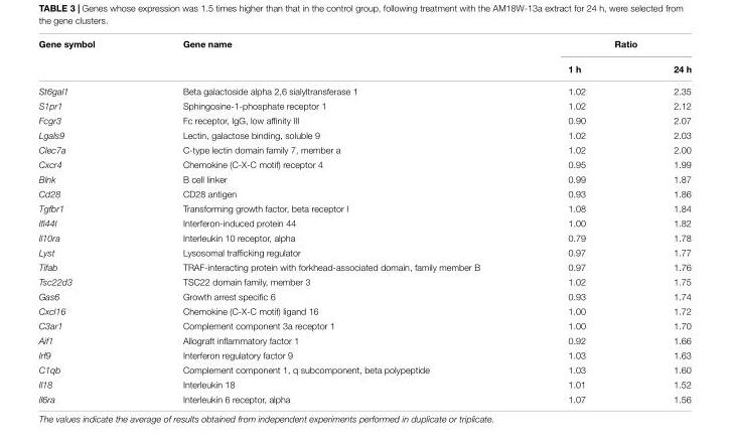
<table><thead><tr><td rowspan="2">Gene symbol</td><td rowspan="2">Gene name</td><td colspan="2">Ratio</td></tr><tr><td>1 h</td><td>24 h</td></tr></thead><tbody><tr><td>St6gal1</td><td>Beta galactoside alpha 2,6 sialyltransferase 1</td><td>1.02</td><td>2.35</td></tr><tr><td>S1pr1</td><td>Sphingosine-1-phosphate receptor 1</td><td>1.02</td><td>2.12</td></tr><tr><td>Fcgr3</td><td>Fc receptor, IgG, low affinity III</td><td>0.90</td><td>2.07</td></tr><tr><td>Lgals9</td><td>Lectin, galactose binding, soluble 9</td><td>1.02</td><td>2.03</td></tr><tr><td>Clec7a</td><td>C-type lectin domain family 7, member a</td><td>1.02</td><td>2.00</td></tr><tr><td>Cxcr4</td><td>Chemokine (C-X-C motif) receptor 4</td><td>0.95</td><td>1.99</td></tr><tr><td>Blnk</td><td>B cell linker</td><td>0.99</td><td>1.87</td></tr><tr><td>Cd28</td><td>CD28 antigen</td><td>0.93</td><td>1.86</td></tr><tr><td>Tgfbr1</td><td>Transforming growth factor, beta receptor I</td><td>1.08</td><td>1.84</td></tr><tr><td>Ifi44l</td><td>Interferon-induced protein 44</td><td>1.00</td><td>1.82</td></tr><tr><td>Il10ra</td><td>Interleukin 10 receptor, alpha</td><td>0.79</td><td>1.78</td></tr><tr><td>Lyst</td><td>Lysosomal trafficking regulator</td><td>0.97</td><td>1.77</td></tr><tr><td>Tifab</td><td>TRAF-interacting protein with forkhead-associated domain, family member B</td><td>0.97</td><td>1.76</td></tr><tr><td>Tsc22d3</td><td>TSC22 domain family, member 3</td><td>1.02</td><td>1.75</td></tr><tr><td>Gas6</td><td>Growth arrest specific 6</td><td>0.93</td><td>1.74</td></tr><tr><td>Cxcl16</td><td>Chemokine (C-X-C motif) ligand 16</td><td>1.00</td><td>1.72</td></tr><tr><td>C3ar1</td><td>Complement component 3a receptor 1</td><td>1.00</td><td>1.70</td></tr><tr><td>Aif1</td><td>Allograft inflammatory factor 1</td><td>0.92</td><td>1.66</td></tr><tr><td>Irf9</td><td>Interferon regulatory factor 9</td><td>1.03</td><td>1.63</td></tr><tr><td>C1qb</td><td>Complement component 1, q subcomponent, beta polypeptide</td><td>1.03</td><td>1.60</td></tr><tr><td>Il18</td><td>Interleukin 18</td><td>1.01</td><td>1.52</td></tr><tr><td>Il6ra</td><td>Interleukin 6 receptor, alpha</td><td>1.07</td><td>1.56</td></tr></tbody></table>